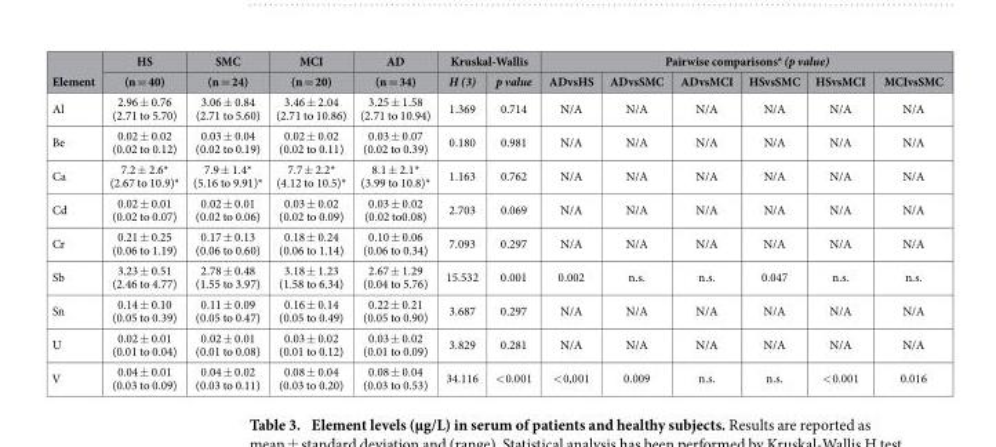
<table><thead><tr><td rowspan="2">Element</td><td rowspan="2">HS (n = 40)</td><td rowspan="2">SMC (n = 24)</td><td rowspan="2">MCI (n = 20)</td><td rowspan="2">AD (n = 34)</td><td colspan="2">Kruskal-Wallis</td><td colspan="6">Pairwise comparisons<sup>a</sup> (p value)</td></tr><tr><td>H (3)</td><td>p value</td><td>ADvsHS</td><td>ADvsSMC</td><td>ADvsMCI</td><td>HSvsSMC</td><td>HSvsMCI</td><td>MCIvsSMC</td></tr></thead><tbody><tr><td>Al</td><td>2.96 ± 0.76 (2.71 to 5.70)</td><td>3.06 ± 0.84 (2.71 to 5.60)</td><td>3.46 ± 2.04 (2.71 to 10.86)</td><td>3.25 ± 1.58 (2.71 to 10.94)</td><td>1.369</td><td>0.714</td><td>N/A</td><td>N/A</td><td>N/A</td><td>N/A</td><td>N/A</td><td>N/A</td></tr><tr><td>Be</td><td>0.02 ± 0.02 (0.02 to 0.12)</td><td>0.03 ± 0.04 (0.02 to 0.19)</td><td>0.02 ± 0.02 (0.02 to 0.11)</td><td>0.03 ± 0.07 (0.02 to 0.39)</td><td>0.180</td><td>0.981</td><td>N/A</td><td>N/A</td><td>N/A</td><td>N/A</td><td>N/A</td><td>N/A</td></tr><tr><td>Ca</td><td>7.2 ± 2.6* (2.67 to 10.9)*</td><td>7.9 ± 1.4* (5.16 to 9.91)*</td><td>7.7 ± 2.2* (4.12 to 10.5)*</td><td>8.1 ± 2.1* (3.99 to 10.8)*</td><td>1.163</td><td>0.762</td><td>N/A</td><td>N/A</td><td>N/A</td><td>N/A</td><td>N/A</td><td>N/A</td></tr><tr><td>Cd</td><td>0.02 ± 0.01 (0.02 to 0.07)</td><td>0.02 ± 0.01 (0.02 to 0.06)</td><td>0.03 ± 0.02 (0.02 to 0.09)</td><td>0.03 ± 0.02 (0.02 to0.08)</td><td>2.703</td><td>0.069</td><td>N/A</td><td>N/A</td><td>N/A</td><td>N/A</td><td>N/A</td><td>N/A</td></tr><tr><td>Cr</td><td>0.21 ± 0.25 (0.06 to 1.19)</td><td>0.17 ± 0.13 (0.06 to 0.60)</td><td>0.18 ± 0.24 (0.06 to 1.14)</td><td>0.10 ± 0.06 (0.06 to 0.34)</td><td>7.093</td><td>0.297</td><td>N/A</td><td>N/A</td><td>N/A</td><td>N/A</td><td>N/A</td><td>N/A</td></tr><tr><td>Sb</td><td>3.23 ± 0.51 (2.46 to 4.77)</td><td>2.78 ± 0.48 (1.55 to 3.97)</td><td>3.18 ± 1.23 (1.58 to 6.34)</td><td>2.67 ± 1.29 (0.04 to 5.76)</td><td>15.532</td><td>0.001</td><td>0.002</td><td>n.s.</td><td>n.s.</td><td>0.047</td><td>n.s.</td><td>n.s.</td></tr><tr><td>Sn</td><td>0.14 ± 0.10 (0.05 to 0.39)</td><td>0.11 ± 0.09 (0.05 to 0.47)</td><td>0.16 ± 0.14 (0.05 to 0.49)</td><td>0.22 ± 0.21 (0.05 to 0.90)</td><td>3.687</td><td>0.297</td><td>N/A</td><td>N/A</td><td>N/A</td><td>N/A</td><td>N/A</td><td>N/A</td></tr><tr><td>U</td><td>0.02 ± 0.01 (0.01 to 0.04)</td><td>0.02 ± 0.01 (0.01 to 0.08)</td><td>0.03 ± 0.02 (0.01 to 0.12)</td><td>0.03 ± 0.02 (0.01 to 0.09)</td><td>3.829</td><td>0.281</td><td>N/A</td><td>N/A</td><td>N/A</td><td>N/A</td><td>N/A</td><td>N/A</td></tr><tr><td>V</td><td>0.04 ± 0.01 (0.03 to 0.09)</td><td>0.04 ± 0.02 (0.03 to 0.11)</td><td>0.08 ± 0.04 (0.03 to 0.20)</td><td>0.08 ± 0.04 (0.03 to 0.53)</td><td>34.116</td><td>&lt; 0.001</td><td>&lt; 0,001</td><td>0.009</td><td>n.s.</td><td>n.s.</td><td>&lt; 0.001</td><td>0.016</td></tr></tbody></table>